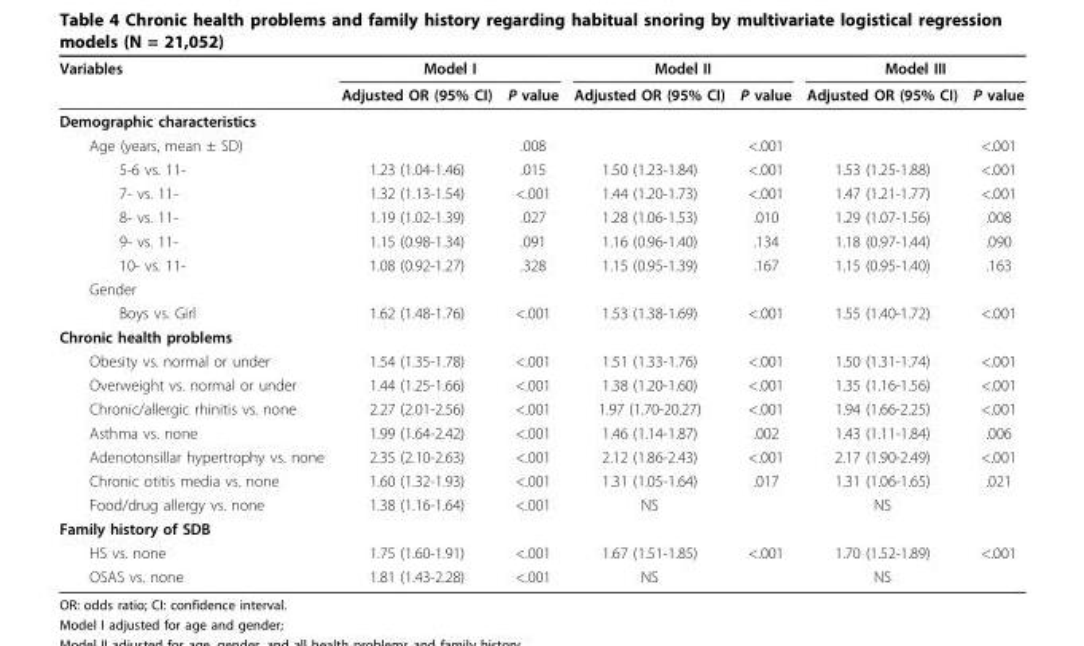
<table><thead><tr><td rowspan="2">Variables</td><td colspan="2">Model I</td><td colspan="2">Model II</td><td colspan="2">Model III</td></tr><tr><td>Adjusted OR (95% CI)</td><td>P value</td><td>Adjusted OR (95% CI)</td><td>P value</td><td>Adjusted OR (95% CI)</td><td>P value</td></tr></thead><tbody><tr><td colspan="7">Demographic characteristics</td></tr><tr><td>Age (years, mean ± SD)</td><td></td><td>.008</td><td></td><td>&lt;.001</td><td></td><td>&lt;.001</td></tr><tr><td>5-6 vs. 11-</td><td>1.23 (1.04-1.46)</td><td>.015</td><td>1.50 (1.23-1.84)</td><td>&lt;.001</td><td>1.53 (1.25-1.88)</td><td>&lt;.001</td></tr><tr><td>7- vs. 11-</td><td>1.32 (1.13-1.54)</td><td>&lt;.001</td><td>1.44 (1.20-1.73)</td><td>&lt;.001</td><td>1.47 (1.21-1.77)</td><td>&lt;.001</td></tr><tr><td>8- vs. 11-</td><td>1.19 (1.02-1.39)</td><td>.027</td><td>1.28 (1.06-1.53)</td><td>.010</td><td>1.29 (1.07-1.56)</td><td>.008</td></tr><tr><td>9- vs. 11-</td><td>1.15 (0.98-1.34)</td><td>.091</td><td>1.16 (0.96-1.40)</td><td>.134</td><td>1.18 (0.97-1.44)</td><td>.090</td></tr><tr><td>10- vs. 11-</td><td>1.08 (0.92-1.27)</td><td>.328</td><td>1.15 (0.95-1.39)</td><td>.167</td><td>1.15 (0.95-1.40)</td><td>.163</td></tr><tr><td colspan="7">Gender</td></tr><tr><td>Boys vs. Girl</td><td>1.62 (1.48-1.76)</td><td>&lt;.001</td><td>1.53 (1.38-1.69)</td><td>&lt;.001</td><td>1.55 (1.40-1.72)</td><td>&lt;.001</td></tr><tr><td colspan="7">Chronic health problems</td></tr><tr><td>Obesity vs. normal or under</td><td>1.54 (1.35-1.78)</td><td>&lt;.001</td><td>1.51 (1.33-1.76)</td><td>&lt;.001</td><td>1.50 (1.31-1.74)</td><td>&lt;.001</td></tr><tr><td>Overweight vs. normal or under</td><td>1.44 (1.25-1.66)</td><td>&lt;.001</td><td>1.38 (1.20-1.60)</td><td>&lt;.001</td><td>1.35 (1.16-1.56)</td><td>&lt;.001</td></tr><tr><td>Chronic/allergic rhinitis vs. none</td><td>2.27 (2.01-2.56)</td><td>&lt;.001</td><td>1.97 (1.70-20.27)</td><td>&lt;.001</td><td>1.94 (1.66-2.25)</td><td>&lt;.001</td></tr><tr><td>Asthma vs. none</td><td>1.99 (1.64-2.42)</td><td>&lt;.001</td><td>1.46 (1.14-1.87)</td><td>.002</td><td>1.43 (1.11-1.84)</td><td>.006</td></tr><tr><td>Adenotonsillar hypertrophy vs. none</td><td>2.35 (2.10-2.63)</td><td>&lt;.001</td><td>2.12 (1.86-2.43)</td><td>&lt;.001</td><td>2.17 (1.90-2.49)</td><td>&lt;.001</td></tr><tr><td>Chronic otitis media vs. none</td><td>1.60 (1.32-1.93)</td><td>&lt;.001</td><td>1.31 (1.05-1.64)</td><td>.017</td><td>1.31 (1.06-1.65)</td><td>.021</td></tr><tr><td>Food/drug allergy vs. none</td><td>1.38 (1.16-1.64)</td><td>&lt;.001</td><td>NS</td><td></td><td>NS</td><td></td></tr><tr><td colspan="7">Family history of SDB</td></tr><tr><td>HS vs. none</td><td>1.75 (1.60-1.91)</td><td>&lt;.001</td><td>1.67 (1.51-1.85)</td><td>&lt;.001</td><td>1.70 (1.52-1.89)</td><td>&lt;.001</td></tr><tr><td>OSAS vs. none</td><td>1.81 (1.43-2.28)</td><td>&lt;.001</td><td>NS</td><td></td><td>NS</td><td></td></tr></tbody></table>